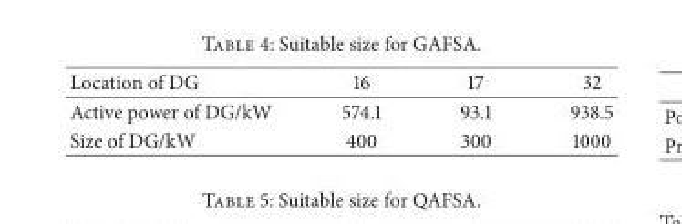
<table><thead><tr><td>Location of DG</td><td>16</td><td>17</td><td>32</td></tr></thead><tbody><tr><td>Active power of DG/kW</td><td>574.1</td><td>93.1</td><td>938.5</td></tr><tr><td>Size of DG/kW</td><td>400</td><td>300</td><td>1000</td></tr></tbody></table>